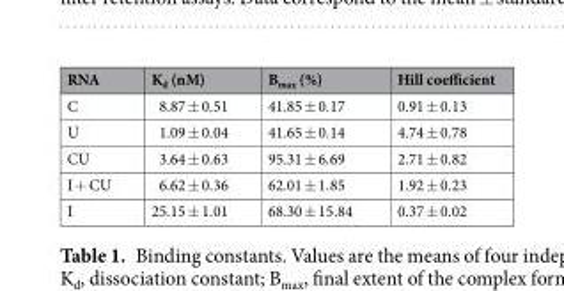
<table><thead><tr><td>RNA</td><td>K<sub>d</sub> (nM)</td><td>B<sub>max</sub> (%)</td><td>Hill coefficient</td></tr></thead><tbody><tr><td>C</td><td>8.87 ± 0.51</td><td>41.85 ± 0.17</td><td>0.91 ± 0.13</td></tr><tr><td>U</td><td>1.09 ± 0.04</td><td>41.65 ± 0.14</td><td>4.74 ± 0.78</td></tr><tr><td>CU</td><td>3.64 ± 0.63</td><td>95.31 ± 6.69</td><td>2.71 ± 0.82</td></tr><tr><td>I + CU</td><td>6.62 ± 0.36</td><td>62.01 ± 1.85</td><td>1.92 ± 0.23</td></tr><tr><td>I</td><td>25.15 ± 1.01</td><td>68.30 ± 15.84</td><td>0.37 ± 0.02</td></tr></tbody></table>